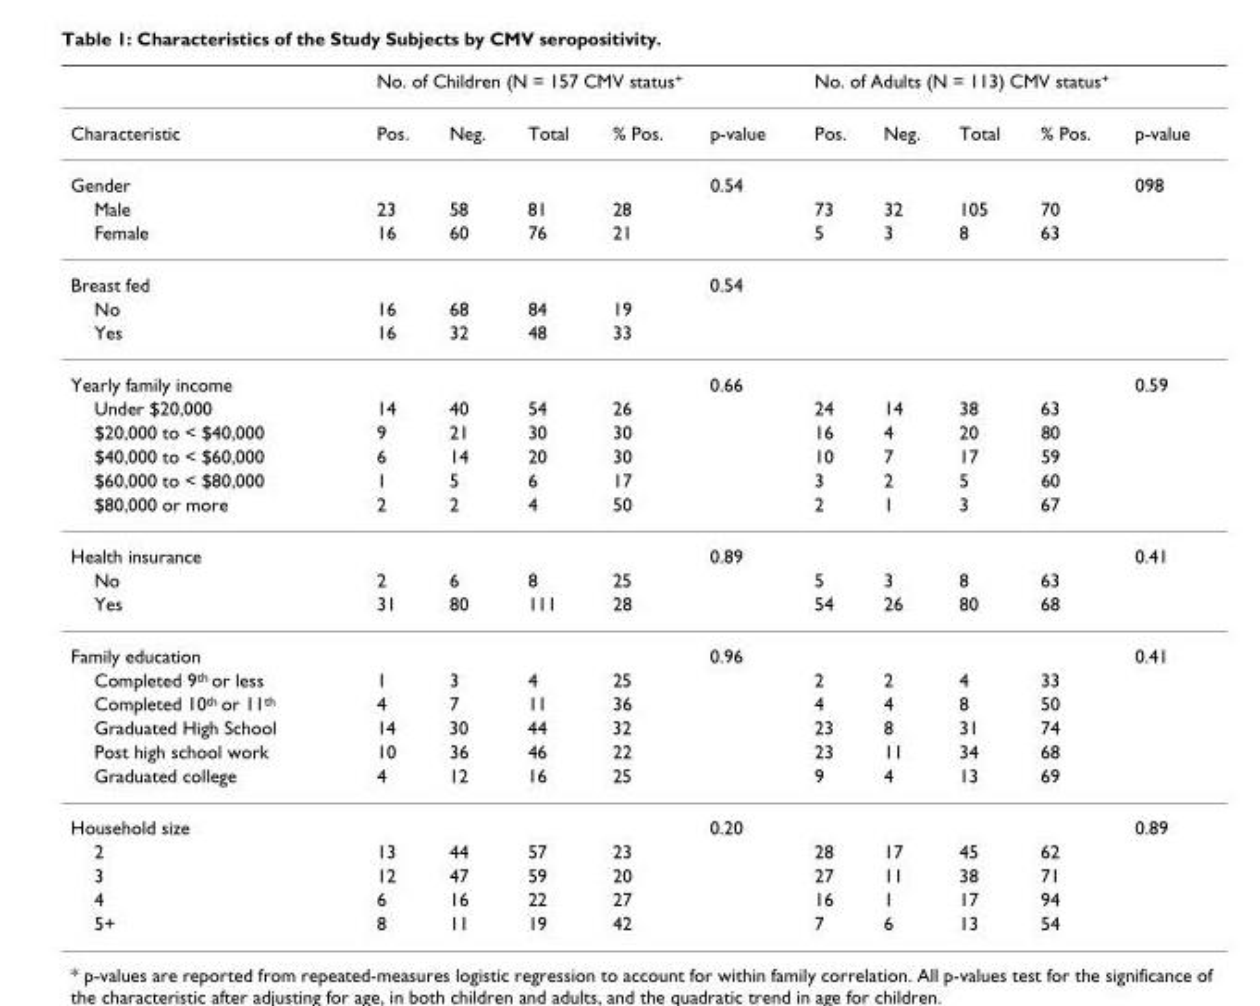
<table><thead><tr><td rowspan="2">Characteristic</td><td colspan="5">No. of Children (N = 157 CMV status<sup>+</sup></td><td colspan="5">No. of Adults (N = 113) CMV status<sup>+</sup></td></tr><tr><td>Pos.</td><td>Neg.</td><td>Total</td><td>% Pos.</td><td>p-value</td><td>Pos.</td><td>Neg.</td><td>Total</td><td>% Pos.</td><td>p-value</td></tr></thead><tbody><tr><td>Gender</td><td></td><td></td><td></td><td></td><td>0.54</td><td></td><td></td><td></td><td></td><td>098</td></tr><tr><td>Male</td><td>23</td><td>58</td><td>81</td><td>28</td><td></td><td>73</td><td>32</td><td>105</td><td>70</td><td></td></tr><tr><td>Female</td><td>16</td><td>60</td><td>76</td><td>21</td><td></td><td>5</td><td>3</td><td>8</td><td>63</td><td></td></tr><tr><td>Breast fed</td><td></td><td></td><td></td><td></td><td>0.54</td><td></td><td></td><td></td><td></td><td></td></tr><tr><td>No</td><td>16</td><td>68</td><td>84</td><td>19</td><td></td><td></td><td></td><td></td><td></td><td></td></tr><tr><td>Yes</td><td>16</td><td>32</td><td>48</td><td>33</td><td></td><td></td><td></td><td></td><td></td><td></td></tr><tr><td>Yearly family income</td><td></td><td></td><td></td><td></td><td>0.66</td><td></td><td></td><td></td><td></td><td>0.59</td></tr><tr><td>Under $20,000</td><td>14</td><td>40</td><td>54</td><td>26</td><td></td><td>24</td><td>14</td><td>38</td><td>63</td><td></td></tr><tr><td>$20,000 to &lt; $40,000</td><td>9</td><td>21</td><td>30</td><td>30</td><td></td><td>16</td><td>4</td><td>20</td><td>80</td><td></td></tr><tr><td>$40,000 to &lt; $60,000</td><td>6</td><td>14</td><td>20</td><td>30</td><td></td><td>10</td><td>7</td><td>17</td><td>59</td><td></td></tr><tr><td>$60,000 to &lt; $80,000</td><td>1</td><td>5</td><td>6</td><td>17</td><td></td><td>3</td><td>2</td><td>5</td><td>60</td><td></td></tr><tr><td>$80,000 or more</td><td>2</td><td>2</td><td>4</td><td>50</td><td></td><td>2</td><td>1</td><td>3</td><td>67</td><td></td></tr><tr><td>Health insurance</td><td></td><td></td><td></td><td></td><td>0.89</td><td></td><td></td><td></td><td></td><td>0.41</td></tr><tr><td>No</td><td>2</td><td>6</td><td>8</td><td>25</td><td></td><td>5</td><td>3</td><td>8</td><td>63</td><td></td></tr><tr><td>Yes</td><td>31</td><td>80</td><td>111</td><td>28</td><td></td><td>54</td><td>26</td><td>80</td><td>68</td><td></td></tr><tr><td>Family education</td><td></td><td></td><td></td><td></td><td>0.96</td><td></td><td></td><td></td><td></td><td>0.41</td></tr><tr><td>Completed 9<sup>th</sup> or less</td><td>1</td><td>3</td><td>4</td><td>25</td><td></td><td>2</td><td>2</td><td>4</td><td>33</td><td></td></tr><tr><td>Completed 10<sup>th</sup> or 11<sup>th</sup></td><td>4</td><td>7</td><td>11</td><td>36</td><td></td><td>4</td><td>4</td><td>8</td><td>50</td><td></td></tr><tr><td>Graduated High School</td><td>14</td><td>30</td><td>44</td><td>32</td><td></td><td>23</td><td>8</td><td>31</td><td>74</td><td></td></tr><tr><td>Post high school work</td><td>10</td><td>36</td><td>46</td><td>22</td><td></td><td>23</td><td>11</td><td>34</td><td>68</td><td></td></tr><tr><td>Graduated college</td><td>4</td><td>12</td><td>16</td><td>25</td><td></td><td>9</td><td>4</td><td>13</td><td>69</td><td></td></tr><tr><td>Household size</td><td></td><td></td><td></td><td></td><td>0.20</td><td></td><td></td><td></td><td></td><td>0.89</td></tr><tr><td>2</td><td>13</td><td>44</td><td>57</td><td>23</td><td></td><td>28</td><td>17</td><td>45</td><td>62</td><td></td></tr><tr><td>3</td><td>12</td><td>47</td><td>59</td><td>20</td><td></td><td>27</td><td>11</td><td>38</td><td>71</td><td></td></tr><tr><td>4</td><td>6</td><td>16</td><td>22</td><td>27</td><td></td><td>16</td><td>1</td><td>17</td><td>94</td><td></td></tr><tr><td>5+</td><td>8</td><td>11</td><td>19</td><td>42</td><td></td><td>7</td><td>6</td><td>13</td><td>54</td><td></td></tr></tbody></table>